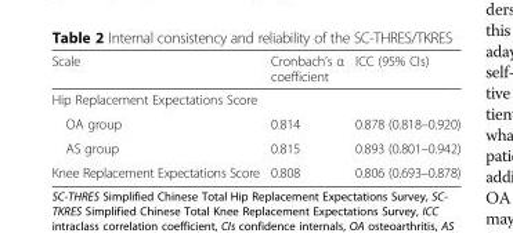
<table><thead><tr><td>Scale</td><td>Cronbach’s α coefficient</td><td>ICC (95% CIs)</td></tr></thead><tbody><tr><td colspan="3">Hip Replacement Expectations Score</td></tr><tr><td>OA group</td><td>0.814</td><td>0.878 (0.818–0.920)</td></tr><tr><td>AS group</td><td>0.815</td><td>0.893 (0.801–0.942)</td></tr><tr><td>Knee Replacement Expectations Score</td><td>0.808</td><td>0.806 (0.693–0.878)</td></tr></tbody></table>